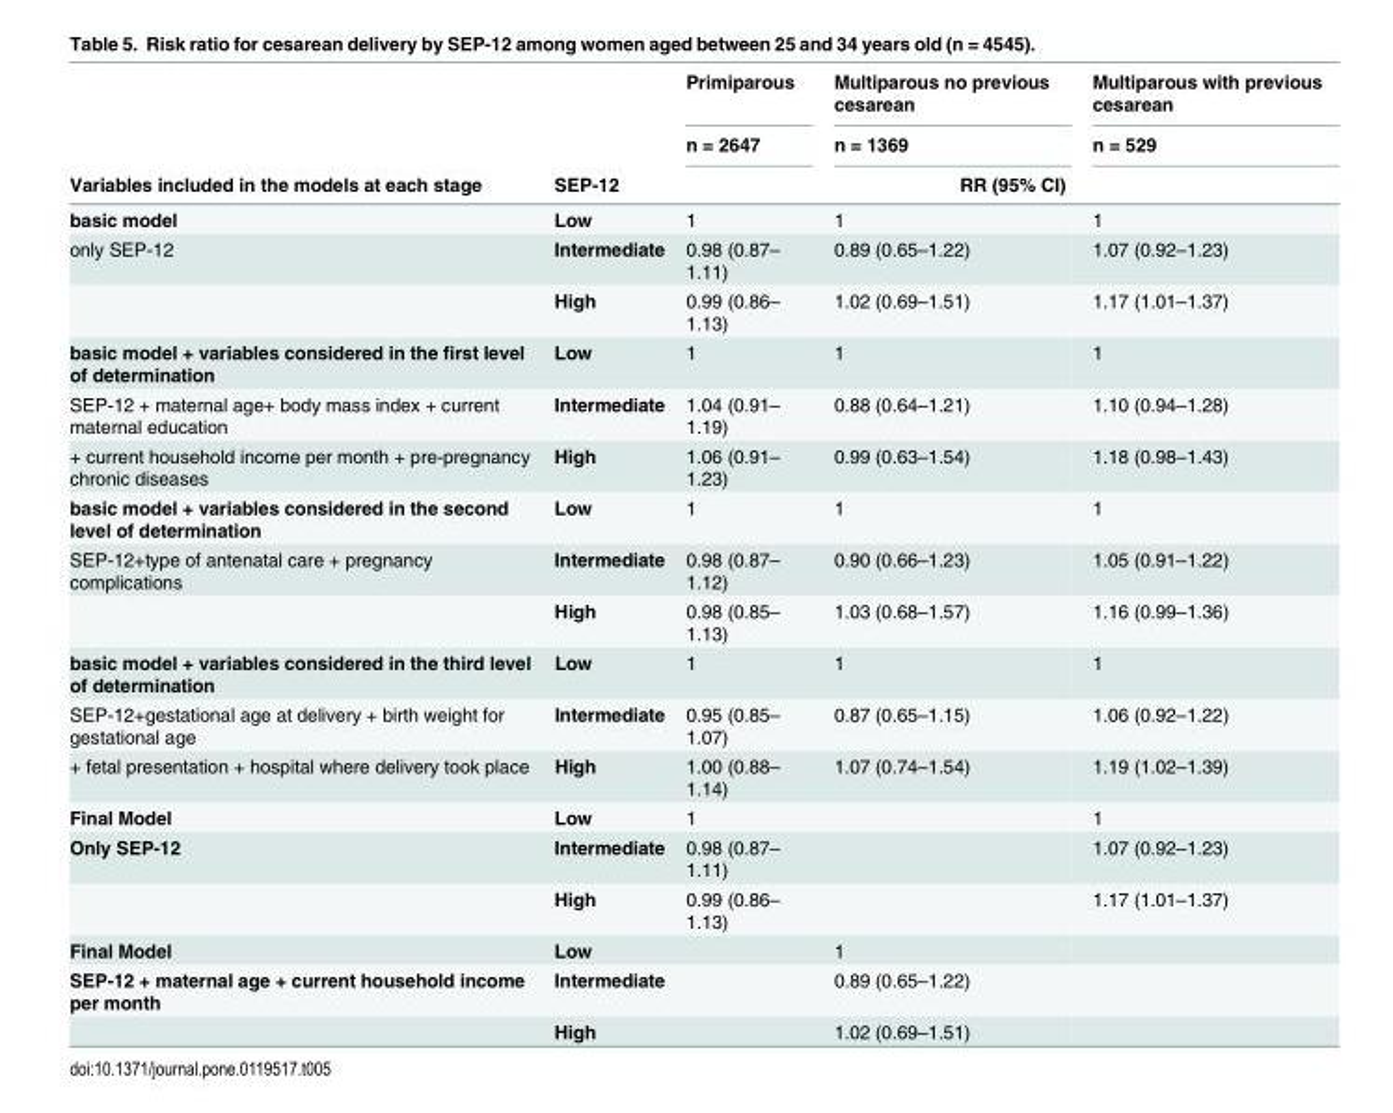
<table><thead><tr><td rowspan="3">Variables included in the models at each stage</td><td rowspan="3">SEP-12</td><td rowspan="2">Primiparous n = 2647</td><td rowspan="2">Multiparous no previous cesarean n = 1369</td><td rowspan="2">Multiparous with previous cesarean n = 529</td></tr><tr></tr><tr><td colspan="3">RR (95% CI)</td></tr></thead><tbody><tr><td>basic model</td><td>Low</td><td>1</td><td>1</td><td>1</td></tr><tr><td rowspan="2">only SEP-12</td><td>Intermediate</td><td>0.98 (0.87– 1.11)</td><td>0.89 (0.65–1.22)</td><td>1.07 (0.92–1.23)</td></tr><tr><td>High</td><td>0.99 (0.86– 1.13)</td><td>1.02 (0.69–1.51)</td><td>1.17 (1.01–1.37)</td></tr><tr><td>basic model + variables considered in the first level of determination</td><td>Low</td><td>1</td><td>1</td><td>1</td></tr><tr><td>SEP-12 + maternal age+ body mass index + current maternal education</td><td>Intermediate</td><td>1.04 (0.91– 1.19)</td><td>0.88 (0.64–1.21)</td><td>1.10 (0.94–1.28)</td></tr><tr><td>+ current household income per month + pre-pregnancy chronic diseases</td><td>High</td><td>1.06 (0.91– 1.23)</td><td>0.99 (0.63–1.54)</td><td>1.18 (0.98–1.43)</td></tr><tr><td>basic model + variables considered in the second level of determination</td><td>Low</td><td>1</td><td>1</td><td>1</td></tr><tr><td rowspan="2">SEP-12+type of antenatal care + pregnancy complications</td><td>Intermediate</td><td>0.98 (0.87– 1.12)</td><td>0.90 (0.66–1.23)</td><td>1.05 (0.91–1.22)</td></tr><tr><td>High</td><td>0.98 (0.85– 1.13)</td><td>1.03 (0.68–1.57)</td><td>1.16 (0.99–1.36)</td></tr><tr><td>basic model + variables considered in the third level of determination</td><td>Low</td><td>1</td><td>1</td><td>1</td></tr><tr><td>SEP-12+gestational age at delivery + birth weight for gestational age</td><td>Intermediate</td><td>0.95 (0.85– 1.07)</td><td>0.87 (0.65–1.15)</td><td>1.06 (0.92–1.22)</td></tr><tr><td>+ fetal presentation + hospital where delivery took place</td><td>High</td><td>1.00 (0.88– 1.14)</td><td>1.07 (0.74–1.54)</td><td>1.19 (1.02–1.39)</td></tr><tr><td>Final Model</td><td>Low</td><td>1</td><td></td><td>1</td></tr><tr><td rowspan="2">Only SEP-12</td><td>Intermediate</td><td>0.98 (0.87– 1.11)</td><td></td><td>1.07 (0.92–1.23)</td></tr><tr><td>High</td><td>0.99 (0.86– 1.13)</td><td></td><td>1.17 (1.01–1.37)</td></tr><tr><td>Final Model</td><td>Low</td><td></td><td>1</td><td></td></tr><tr><td rowspan="2">SEP-12 + maternal age + current household income per month</td><td>Intermediate</td><td></td><td>0.89 (0.65–1.22)</td><td></td></tr><tr><td>High</td><td></td><td>1.02 (0.69–1.51)</td><td></td></tr></tbody></table>